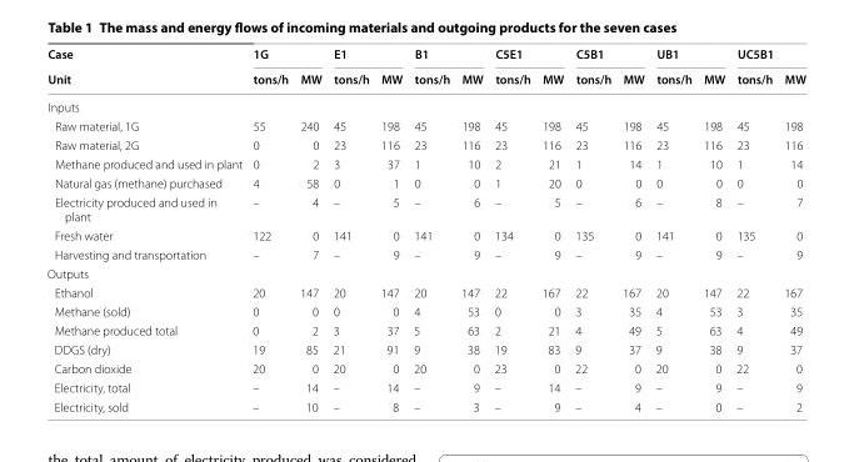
<table><thead><tr><td rowspan="2">Case Unit</td><td colspan="2">1G</td><td colspan="2">E1</td><td colspan="2">B1</td><td colspan="2">C5E1</td><td colspan="2">C5B1</td><td colspan="2">UB1</td><td colspan="2">UC5B1</td></tr><tr><td>tons/h</td><td>MW</td><td>tons/h</td><td>MW</td><td>tons/h</td><td>MW</td><td>tons/h</td><td>MW</td><td>tons/h</td><td>MW</td><td>tons/h</td><td>MW</td><td>tons/h</td><td>MW</td></tr></thead><tbody><tr><td colspan="15">Inputs</td></tr><tr><td>Raw material, 1G</td><td>55</td><td>240</td><td>45</td><td>198</td><td>45</td><td>198</td><td>45</td><td>198</td><td>45</td><td>198</td><td>45</td><td>198</td><td>45</td><td>198</td></tr><tr><td>Raw material, 2G</td><td>0</td><td>0</td><td>23</td><td>116</td><td>23</td><td>116</td><td>23</td><td>116</td><td>23</td><td>116</td><td>23</td><td>116</td><td>23</td><td>116</td></tr><tr><td>Methane produced and used in plant</td><td>0</td><td>2</td><td>3</td><td>37</td><td>1</td><td>10</td><td>2</td><td>21</td><td>1</td><td>14</td><td>1</td><td>10</td><td>1</td><td>14</td></tr><tr><td>Natural gas (methane) purchased</td><td>4</td><td>58</td><td>0</td><td>1</td><td>0</td><td>0</td><td>1</td><td>20</td><td>0</td><td>0</td><td>0</td><td>0</td><td>0</td><td>0</td></tr><tr><td>Electricity produced and used in plant</td><td>–</td><td>4</td><td>–</td><td>5</td><td>–</td><td>6</td><td>–</td><td>5</td><td>–</td><td>6</td><td>–</td><td>8</td><td>–</td><td>7</td></tr><tr><td>Fresh water</td><td>122</td><td>0</td><td>141</td><td>0</td><td>141</td><td>0</td><td>134</td><td>0</td><td>135</td><td>0</td><td>141</td><td>0</td><td>135</td><td>0</td></tr><tr><td>Harvesting and transportation</td><td>–</td><td>7</td><td>–</td><td>9</td><td>–</td><td>9</td><td>–</td><td>9</td><td>–</td><td>9</td><td>–</td><td>9</td><td>–</td><td>9</td></tr><tr><td colspan="15">Outputs</td></tr><tr><td>Ethanol</td><td>20</td><td>147</td><td>20</td><td>147</td><td>20</td><td>147</td><td>22</td><td>167</td><td>22</td><td>167</td><td>20</td><td>147</td><td>22</td><td>167</td></tr><tr><td>Methane (sold)</td><td>0</td><td>0</td><td>0</td><td>0</td><td>4</td><td>53</td><td>0</td><td>0</td><td>3</td><td>35</td><td>4</td><td>53</td><td>3</td><td>35</td></tr><tr><td>Methane produced total</td><td>0</td><td>2</td><td>3</td><td>37</td><td>5</td><td>63</td><td>2</td><td>21</td><td>4</td><td>49</td><td>5</td><td>63</td><td>4</td><td>49</td></tr><tr><td>DDGS (dry)</td><td>19</td><td>85</td><td>21</td><td>91</td><td>9</td><td>38</td><td>19</td><td>83</td><td>9</td><td>37</td><td>9</td><td>38</td><td>9</td><td>37</td></tr><tr><td>Carbon dioxide</td><td>20</td><td>0</td><td>20</td><td>0</td><td>20</td><td>0</td><td>23</td><td>0</td><td>22</td><td>0</td><td>20</td><td>0</td><td>22</td><td>0</td></tr><tr><td>Electricity, total</td><td>–</td><td>14</td><td>–</td><td>14</td><td>–</td><td>9</td><td>–</td><td>14</td><td>–</td><td>9</td><td>–</td><td>9</td><td>–</td><td>9</td></tr><tr><td>Electricity, sold</td><td>–</td><td>10</td><td>–</td><td>8</td><td>–</td><td>3</td><td>–</td><td>9</td><td>–</td><td>4</td><td>–</td><td>0</td><td>–</td><td>2</td></tr></tbody></table>